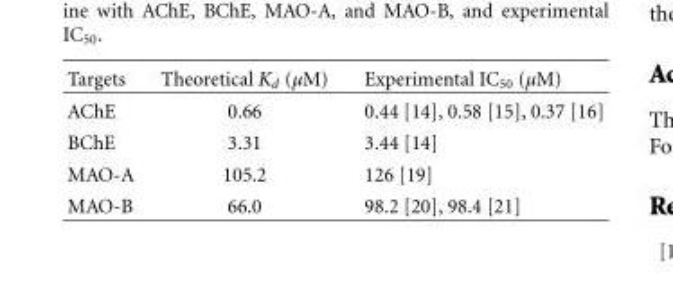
<table><thead><tr><td>Targets</td><td>Theoretical K<sub>d</sub> (µM)</td><td>Experimental IC<sub>50</sub> (µM)</td></tr></thead><tbody><tr><td>AChE</td><td>0.66</td><td>0.44 [14], 0.58 [15], 0.37 [16]</td></tr><tr><td>BChE</td><td>3.31</td><td>3.44 [14]</td></tr><tr><td>MAO-A</td><td>105.2</td><td>126 [19]</td></tr><tr><td>MAO-B</td><td>66.0</td><td>98.2 [20], 98.4 [21]</td></tr></tbody></table>